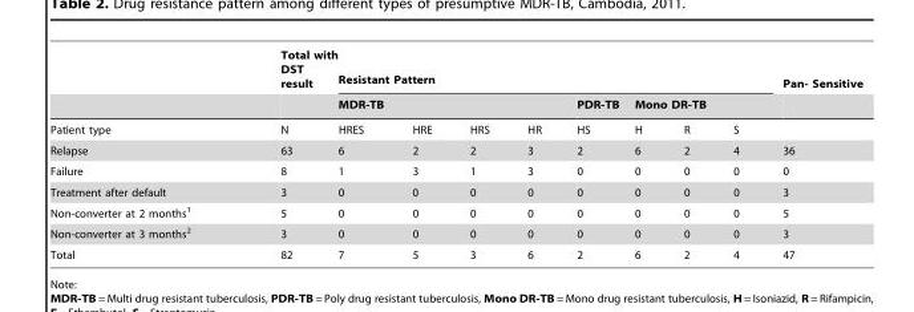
<table><thead><tr><td rowspan="3">Patient type</td><td rowspan="3">Total with DST result N</td><td colspan="8">Resistant Pattern</td><td rowspan="3">Pan- Sensitive</td></tr><tr><td colspan="4">MDR-TB</td><td rowspan="2">PDR-TB HS</td><td colspan="3">Mono DR-TB</td></tr><tr><td>HRES</td><td>HRE</td><td>HRS</td><td>HR</td><td>H</td><td>R</td><td>S</td></tr></thead><tbody><tr><td>Relapse</td><td>63</td><td>6</td><td>2</td><td>2</td><td>3</td><td>2</td><td>6</td><td>2</td><td>4</td><td>36</td></tr><tr><td>Failure</td><td>8</td><td>1</td><td>3</td><td>1</td><td>3</td><td>0</td><td>0</td><td>0</td><td>0</td><td>0</td></tr><tr><td>Treatment after default</td><td>3</td><td>0</td><td>0</td><td>0</td><td>0</td><td>0</td><td>0</td><td>0</td><td>0</td><td>3</td></tr><tr><td>Non-converter at 2 months<sup>1</sup></td><td>5</td><td>0</td><td>0</td><td>0</td><td>0</td><td>0</td><td>0</td><td>0</td><td>0</td><td>5</td></tr><tr><td>Non-converter at 3 months<sup>2</sup></td><td>3</td><td>0</td><td>0</td><td>0</td><td>0</td><td>0</td><td>0</td><td>0</td><td>0</td><td>3</td></tr><tr><td>Total</td><td>82</td><td>7</td><td>5</td><td>3</td><td>6</td><td>2</td><td>6</td><td>2</td><td>4</td><td>47</td></tr></tbody></table>